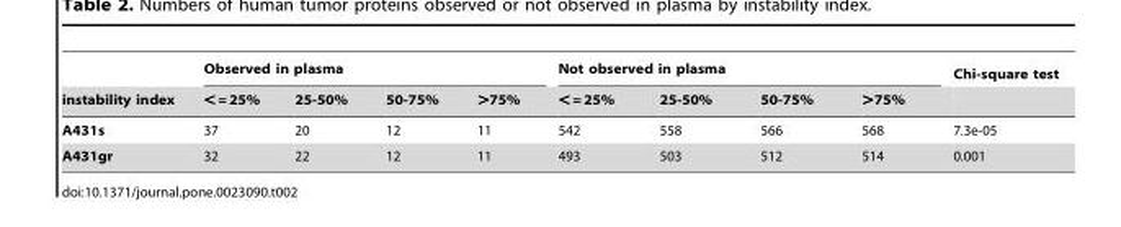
<table><thead><tr><td rowspan="2">instability index</td><td colspan="4">Observed in plasma</td><td colspan="4">Not observed in plasma</td><td rowspan="2">Chi-square test</td></tr><tr><td>&lt; = 25%</td><td>25-50%</td><td>50-75%</td><td>&gt;75%</td><td>&lt; = 25%</td><td>25-50%</td><td>50-75%</td><td>&gt;75%</td></tr></thead><tbody><tr><td>A431s</td><td>37</td><td>20</td><td>12</td><td>11</td><td>542</td><td>558</td><td>566</td><td>568</td><td>7.3e-05</td></tr><tr><td>A431gr</td><td>32</td><td>22</td><td>12</td><td>11</td><td>493</td><td>503</td><td>512</td><td>514</td><td>0.001</td></tr></tbody></table>